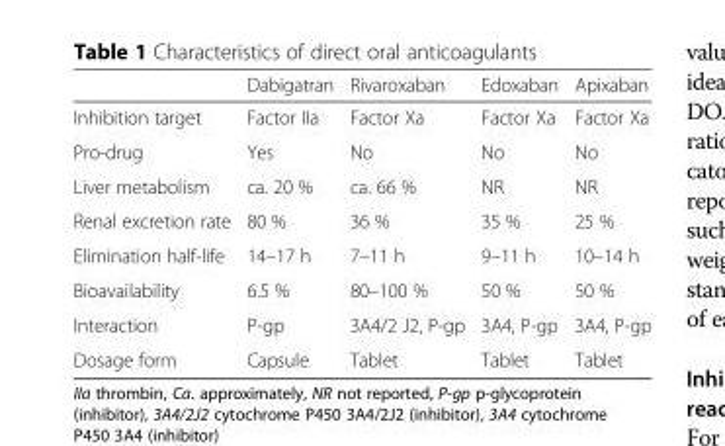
<table><thead><tr><td></td><td>Dabigatran</td><td>Rivaroxaban</td><td>Edoxaban</td><td>Apixaban</td></tr></thead><tbody><tr><td>Inhibition target</td><td>Factor IIa</td><td>Factor Xa</td><td>Factor Xa</td><td>Factor Xa</td></tr><tr><td>Pro-drug</td><td>Yes</td><td>No</td><td>No</td><td>No</td></tr><tr><td>Liver metabolism</td><td>ca. 20 %</td><td>ca. 66 %</td><td>NR</td><td>NR</td></tr><tr><td>Renal excretion rate</td><td>80 %</td><td>36 %</td><td>35 %</td><td>25 %</td></tr><tr><td>Elimination half-life</td><td>14–17 h</td><td>7–11 h</td><td>9–11 h</td><td>10–14 h</td></tr><tr><td>Bioavailability</td><td>6.5 %</td><td>80–100 %</td><td>50 %</td><td>50 %</td></tr><tr><td>Interaction</td><td>P-gp</td><td>3A4/2 J2, P-gp</td><td>3A4, P-gp</td><td>3A4, P-gp</td></tr><tr><td>Dosage form</td><td>Capsule</td><td>Tablet</td><td>Tablet</td><td>Tablet</td></tr></tbody></table>